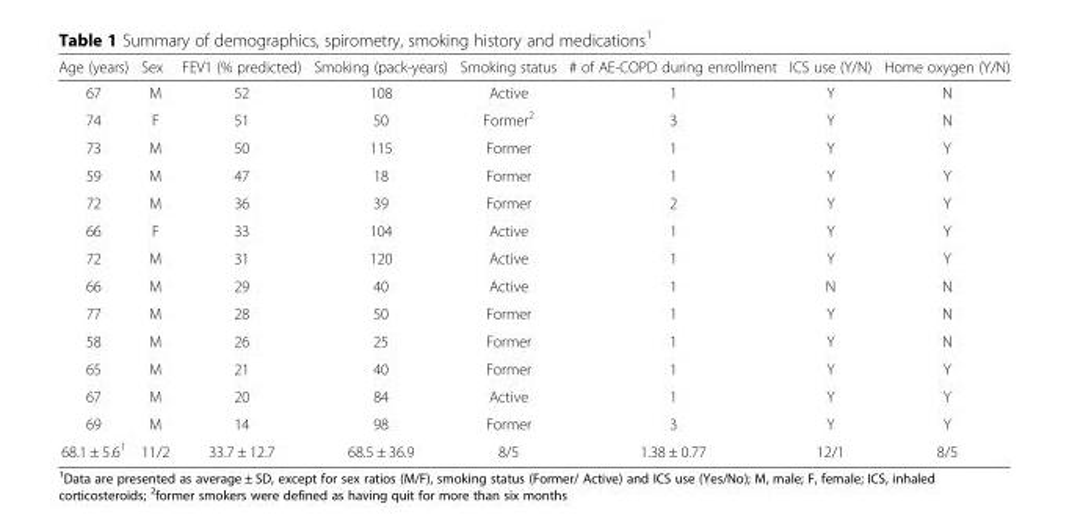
<table><thead><tr><td>Age (years)</td><td>Sex</td><td>FEV1 (% predicted)</td><td>Smoking (pack-years)</td><td>Smoking status</td><td># of AE-COPD during enrollment</td><td>ICS use (Y/N)</td><td>Home oxygen (Y/N)</td></tr></thead><tbody><tr><td>67</td><td>M</td><td>52</td><td>108</td><td>Active</td><td>1</td><td>Y</td><td>N</td></tr><tr><td>74</td><td>F</td><td>51</td><td>50</td><td>Former<sup>2</sup></td><td>3</td><td>Y</td><td>N</td></tr><tr><td>73</td><td>M</td><td>50</td><td>115</td><td>Former</td><td>1</td><td>Y</td><td>Y</td></tr><tr><td>59</td><td>M</td><td>47</td><td>18</td><td>Former</td><td>1</td><td>Y</td><td>Y</td></tr><tr><td>72</td><td>M</td><td>36</td><td>39</td><td>Former</td><td>2</td><td>Y</td><td>Y</td></tr><tr><td>66</td><td>F</td><td>33</td><td>104</td><td>Active</td><td>1</td><td>Y</td><td>Y</td></tr><tr><td>72</td><td>M</td><td>31</td><td>120</td><td>Active</td><td>1</td><td>Y</td><td>Y</td></tr><tr><td>66</td><td>M</td><td>29</td><td>40</td><td>Active</td><td>1</td><td>N</td><td>N</td></tr><tr><td>77</td><td>M</td><td>28</td><td>50</td><td>Former</td><td>1</td><td>Y</td><td>N</td></tr><tr><td>58</td><td>M</td><td>26</td><td>25</td><td>Former</td><td>1</td><td>Y</td><td>N</td></tr><tr><td>65</td><td>M</td><td>21</td><td>40</td><td>Former</td><td>1</td><td>Y</td><td>Y</td></tr><tr><td>67</td><td>M</td><td>20</td><td>84</td><td>Active</td><td>1</td><td>Y</td><td>Y</td></tr><tr><td>69</td><td>M</td><td>14</td><td>98</td><td>Former</td><td>3</td><td>Y</td><td>Y</td></tr><tr><td>68.1 ± 5.6<sup>1</sup></td><td>11/2</td><td>33.7 ± 12.7</td><td>68.5 ± 36.9</td><td>8/5</td><td>1.38 ± 0.77</td><td>12/1</td><td>8/5</td></tr></tbody></table>